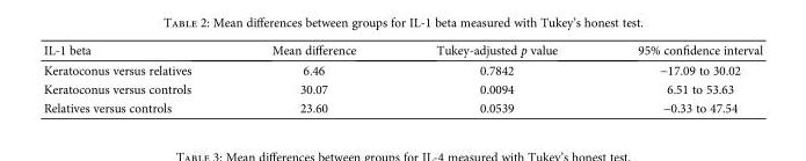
<table><thead><tr><td>IL-1 beta</td><td>Mean difference</td><td>Tukey-adjusted p value</td><td>95% confidence interval</td></tr></thead><tbody><tr><td>Keratoconus versus relatives</td><td>6.46</td><td>0.7842</td><td>−17.09 to 30.02</td></tr><tr><td>Keratoconus versus controls</td><td>30.07</td><td>0.0094</td><td>6.51 to 53.63</td></tr><tr><td>Relatives versus controls</td><td>23.60</td><td>0.0539</td><td>−0.33 to 47.54</td></tr></tbody></table>